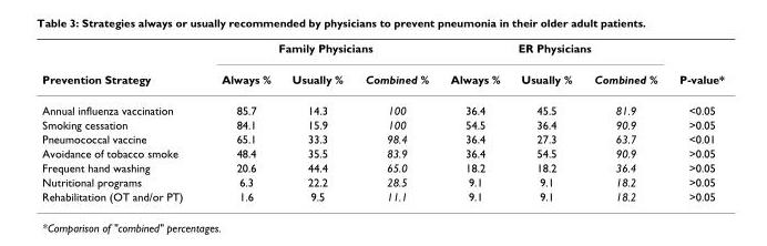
<table><thead><tr><td rowspan="2">Prevention Strategy</td><td colspan="3">Family Physicians</td><td colspan="3">ER Physicians</td><td rowspan="2">P-value*</td></tr><tr><td>Always %</td><td>Usually %</td><td>Combined %</td><td>Always %</td><td>Usually %</td><td>Combined %</td></tr></thead><tbody><tr><td>Annual influenza vaccination</td><td>85.7</td><td>14.3</td><td>100</td><td>36.4</td><td>45.5</td><td>81.9</td><td>&lt;0.05</td></tr><tr><td>Smoking cessation</td><td>84.1</td><td>15.9</td><td>100</td><td>54.5</td><td>36.4</td><td>90.9</td><td>&gt;0.05</td></tr><tr><td>Pneumococcal vaccine</td><td>65.1</td><td>33.3</td><td>98.4</td><td>36.4</td><td>27.3</td><td>63.7</td><td>&lt;0.01</td></tr><tr><td>Avoidance of tobacco smoke</td><td>48.4</td><td>35.5</td><td>83.9</td><td>36.4</td><td>54.5</td><td>90.9</td><td>&gt;0.05</td></tr><tr><td>Frequent hand washing</td><td>20.6</td><td>44.4</td><td>65.0</td><td>18.2</td><td>18.2</td><td>36.4</td><td>&gt;0.05</td></tr><tr><td>Nutritional programs</td><td>6.3</td><td>22.2</td><td>28.5</td><td>9.1</td><td>9.1</td><td>18.2</td><td>&gt;0.05</td></tr><tr><td>Rehabilitation (OT and/or PT)</td><td>1.6</td><td>9.5</td><td>11.1</td><td>9.1</td><td>9.1</td><td>18.2</td><td>&gt;0.05</td></tr></tbody></table>